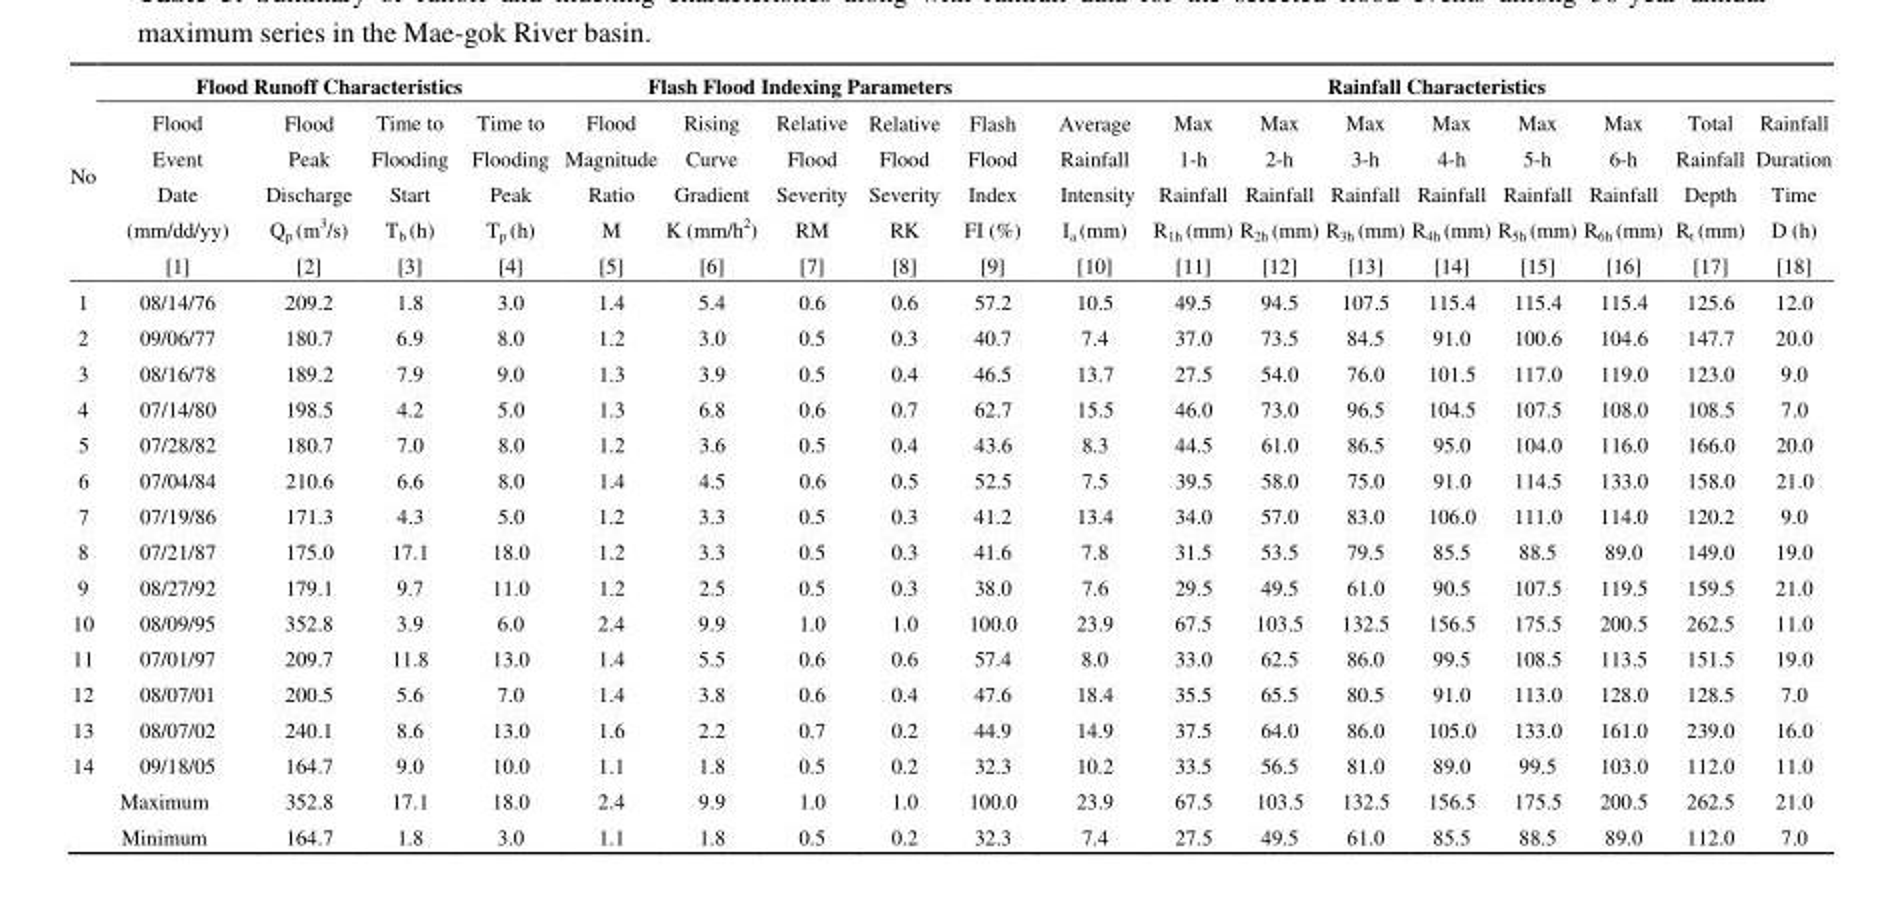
<table><thead><tr><td rowspan="2">No</td><td colspan="4">Flood Runoff Characteristics</td><td colspan="5">Flash Flood Indexing Parameters</td><td colspan="9">Rainfall Characteristics</td></tr><tr><td>Flood Event Date (mm/dd/yy) [1]</td><td>Flood Peak Discharge Q<sup>p</sup> (m<sup>3</sup>/s) [2]</td><td>Time to Flooding Start T<sub>b</sub> (h) [3]</td><td>Time to Flooding Peak T<sub>p</sub> (h) [4]</td><td>Flood Magnitude Ratio M [5]</td><td>Rising Curve Gradient K (mm/h<sup>2</sup>) [6]</td><td>Relative Flood Severity RM [7]</td><td>Relative Flood Severity RK [8]</td><td>Flash Flood Index FI (%) [9]</td><td>Average Rainfall Intensity I<sub>a</sub> (mm) [10]</td><td>Max 1-h Rainfall R<sub>1h</sub> (mm) [11]</td><td>Max 2-h Rainfall R<sub>2h</sub> (mm) [12]</td><td>Max 3-h Rainfall R<sub>3h</sub> (mm) [13]</td><td>Max 4-h Rainfall R<sub>4h</sub> (mm) [14]</td><td>Max 5-h Rainfall R<sub>5h</sub> (mm) [15]</td><td>Max 6-h Rainfall R<sub>6h</sub> (mm) [16]</td><td>Total Rainfall Depth R<sub>t</sub> (mm) [17]</td><td>Rainfall Duration Time D (h) [18]</td></tr></thead><tbody><tr><td>1</td><td>08/14/76</td><td>209.2</td><td>1.8</td><td>3.0</td><td>1.4</td><td>5.4</td><td>0.6</td><td>0.6</td><td>57.2</td><td>10.5</td><td>49.5</td><td>94.5</td><td>107.5</td><td>115.4</td><td>115.4</td><td>115.4</td><td>125.6</td><td>12.0</td></tr><tr><td>2</td><td>09/06/77</td><td>180.7</td><td>6.9</td><td>8.0</td><td>1.2</td><td>3.0</td><td>0.5</td><td>0.3</td><td>40.7</td><td>7.4</td><td>37.0</td><td>73.5</td><td>84.5</td><td>91.0</td><td>100.6</td><td>104.6</td><td>147.7</td><td>20.0</td></tr><tr><td>3</td><td>08/16/78</td><td>189.2</td><td>7.9</td><td>9.0</td><td>1.3</td><td>3.9</td><td>0.5</td><td>0.4</td><td>46.5</td><td>13.7</td><td>27.5</td><td>54.0</td><td>76.0</td><td>101.5</td><td>117.0</td><td>119.0</td><td>123.0</td><td>9.0</td></tr><tr><td>4</td><td>07/14/80</td><td>198.5</td><td>4.2</td><td>5.0</td><td>1.3</td><td>6.8</td><td>0.6</td><td>0.7</td><td>62.7</td><td>15.5</td><td>46.0</td><td>73.0</td><td>96.5</td><td>104.5</td><td>107.5</td><td>108.0</td><td>108.5</td><td>7.0</td></tr><tr><td>5</td><td>07/28/82</td><td>180.7</td><td>7.0</td><td>8.0</td><td>1.2</td><td>3.6</td><td>0.5</td><td>0.4</td><td>43.6</td><td>8.3</td><td>44.5</td><td>61.0</td><td>86.5</td><td>95.0</td><td>104.0</td><td>116.0</td><td>166.0</td><td>20.0</td></tr><tr><td>6</td><td>07/04/84</td><td>210.6</td><td>6.6</td><td>8.0</td><td>1.4</td><td>4.5</td><td>0.6</td><td>0.5</td><td>52.5</td><td>7.5</td><td>39.5</td><td>58.0</td><td>75.0</td><td>91.0</td><td>114.5</td><td>133.0</td><td>158.0</td><td>21.0</td></tr><tr><td>7</td><td>07/19/86</td><td>171.3</td><td>4.3</td><td>5.0</td><td>1.2</td><td>3.3</td><td>0.5</td><td>0.3</td><td>41.2</td><td>13.4</td><td>34.0</td><td>57.0</td><td>83.0</td><td>106.0</td><td>111.0</td><td>114.0</td><td>120.2</td><td>9.0</td></tr><tr><td>8</td><td>07/21/87</td><td>175.0</td><td>17.1</td><td>18.0</td><td>1.2</td><td>3.3</td><td>0.5</td><td>0.3</td><td>41.6</td><td>7.8</td><td>31.5</td><td>53.5</td><td>79.5</td><td>85.5</td><td>88.5</td><td>89.0</td><td>149.0</td><td>19.0</td></tr><tr><td>9</td><td>08/27/92</td><td>179.1</td><td>9.7</td><td>11.0</td><td>1.2</td><td>2.5</td><td>0.5</td><td>0.3</td><td>38.0</td><td>7.6</td><td>29.5</td><td>49.5</td><td>61.0</td><td>90.5</td><td>107.5</td><td>119.5</td><td>159.5</td><td>21.0</td></tr><tr><td>10</td><td>08/09/95</td><td>352.8</td><td>3.9</td><td>6.0</td><td>2.4</td><td>9.9</td><td>1.0</td><td>1.0</td><td>100.0</td><td>23.9</td><td>67.5</td><td>103.5</td><td>132.5</td><td>156.5</td><td>175.5</td><td>200.5</td><td>262.5</td><td>11.0</td></tr><tr><td>11</td><td>07/01/97</td><td>209.7</td><td>11.8</td><td>13.0</td><td>1.4</td><td>5.5</td><td>0.6</td><td>0.6</td><td>57.4</td><td>8.0</td><td>33.0</td><td>62.5</td><td>86.0</td><td>99.5</td><td>108.5</td><td>113.5</td><td>151.5</td><td>19.0</td></tr><tr><td>12</td><td>08/07/01</td><td>200.5</td><td>5.6</td><td>7.0</td><td>1.4</td><td>3.8</td><td>0.6</td><td>0.4</td><td>47.6</td><td>18.4</td><td>35.5</td><td>65.5</td><td>80.5</td><td>91.0</td><td>113.0</td><td>128.0</td><td>128.5</td><td>7.0</td></tr><tr><td>13</td><td>08/07/02</td><td>240.1</td><td>8.6</td><td>13.0</td><td>1.6</td><td>2.2</td><td>0.7</td><td>0.2</td><td>44.9</td><td>14.9</td><td>37.5</td><td>64.0</td><td>86.0</td><td>105.0</td><td>133.0</td><td>161.0</td><td>239.0</td><td>16.0</td></tr><tr><td>14</td><td>09/18/05</td><td>164.7</td><td>9.0</td><td>10.0</td><td>1.1</td><td>1.8</td><td>0.5</td><td>0.2</td><td>32.3</td><td>10.2</td><td>33.5</td><td>56.5</td><td>81.0</td><td>89.0</td><td>99.5</td><td>103.0</td><td>112.0</td><td>11.0</td></tr><tr><td colspan="2">Maximum</td><td>352.8</td><td>17.1</td><td>18.0</td><td>2.4</td><td>9.9</td><td>1.0</td><td>1.0</td><td>100.0</td><td>23.9</td><td>67.5</td><td>103.5</td><td>132.5</td><td>156.5</td><td>175.5</td><td>200.5</td><td>262.5</td><td>21.0</td></tr><tr><td colspan="2">Minimum</td><td>164.7</td><td>1.8</td><td>3.0</td><td>1.1</td><td>1.8</td><td>0.5</td><td>0.2</td><td>32.3</td><td>7.4</td><td>27.5</td><td>49.5</td><td>61.0</td><td>85.5</td><td>88.5</td><td>89.0</td><td>112.0</td><td>7.0</td></tr></tbody></table>